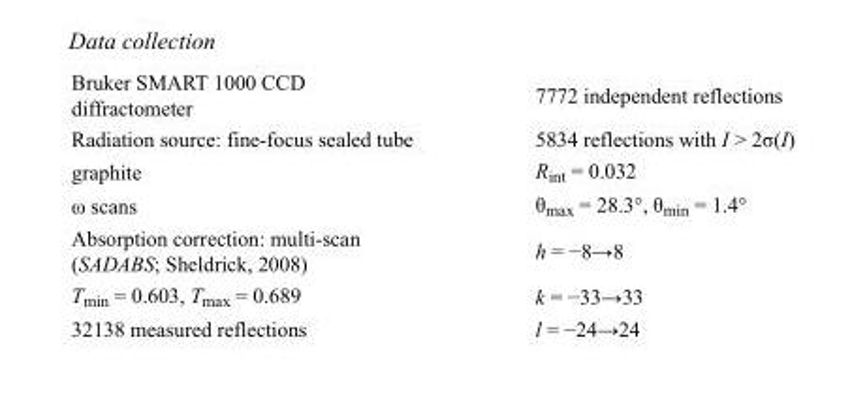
<table><tbody><tr><td>Bruker SMART 1000 CCD diffractometer</td><td>7772 independent reflections</td></tr><tr><td>Radiation source: fine-focus sealed tube</td><td>5834 reflections with I &gt; 2σ(I)</td></tr><tr><td>graphite</td><td>R<sub>int</sub> = 0.032</td></tr><tr><td>ω scans</td><td>θ<sub>max</sub> = 28.3°, θ<sub>min</sub> = 1.4°</td></tr><tr><td>Absorption correction: multi-scan (SADABS; Sheldrick, 2008)</td><td>h = −8→8</td></tr><tr><td>T<sub>min</sub> = 0.603, T<sub>max</sub> = 0.689</td><td>k = −33→33</td></tr><tr><td>32138 measured reflections</td><td>l = −24→24</td></tr></tbody></table>